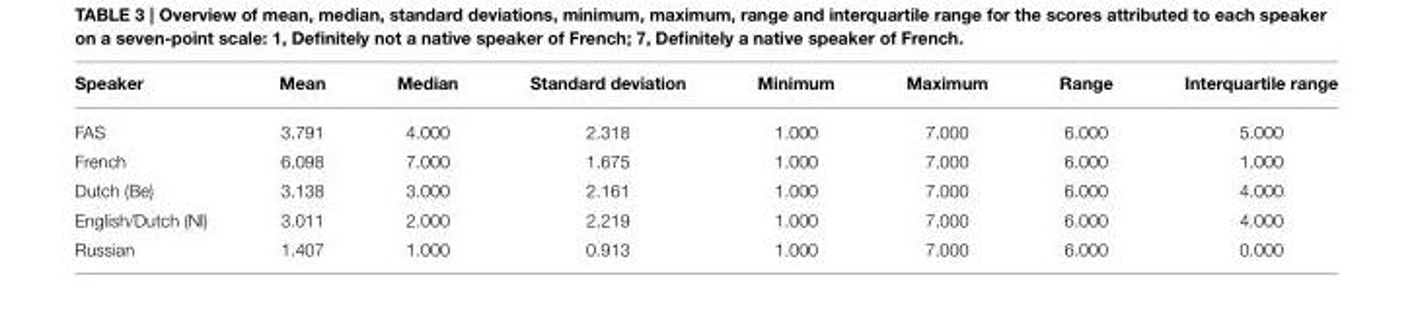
<table><thead><tr><td>Speaker</td><td>Mean</td><td>Median</td><td>Standard deviation</td><td>Minimum</td><td>Maximum</td><td>Range</td><td>Interquartile range</td></tr></thead><tbody><tr><td>FAS</td><td>3.791</td><td>4.000</td><td>2.318</td><td>1.000</td><td>7.000</td><td>6.000</td><td>5.000</td></tr><tr><td>French</td><td>6.098</td><td>7.000</td><td>1.675</td><td>1.000</td><td>7.000</td><td>6.000</td><td>1.000</td></tr><tr><td>Dutch (Be)</td><td>3.138</td><td>3.000</td><td>2.161</td><td>1.000</td><td>7.000</td><td>6.000</td><td>4.000</td></tr><tr><td>English/Dutch (Nl)</td><td>3.011</td><td>2.000</td><td>2.219</td><td>1.000</td><td>7.000</td><td>6.000</td><td>4.000</td></tr><tr><td>Russian</td><td>1.407</td><td>1.000</td><td>0.913</td><td>1.000</td><td>7.000</td><td>6.000</td><td>0.000</td></tr></tbody></table>